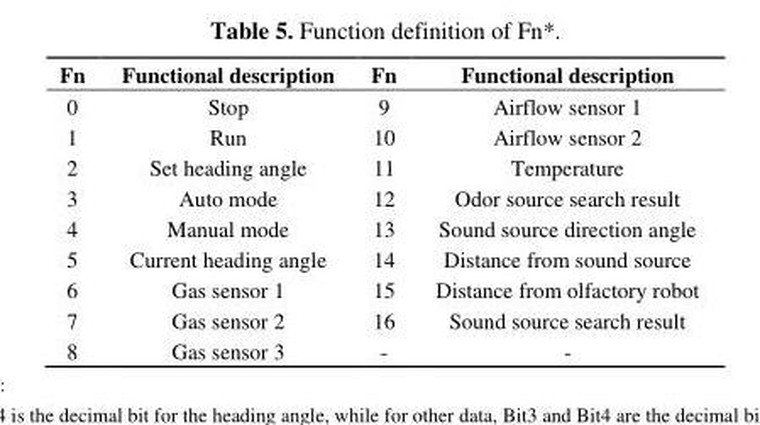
<table><thead><tr><td>Fn</td><td>Functional description</td><td>Fn</td><td>Functional description</td></tr></thead><tbody><tr><td>0</td><td>Stop</td><td>9</td><td>Airflow sensor 1</td></tr><tr><td>1</td><td>Run</td><td>10</td><td>Airflow sensor 2</td></tr><tr><td>2</td><td>Set heading angle</td><td>11</td><td>Temperature</td></tr><tr><td>3</td><td>Auto mode</td><td>12</td><td>Odor source search result</td></tr><tr><td>4</td><td>Manual mode</td><td>13</td><td>Sound source direction angle</td></tr><tr><td>5</td><td>Current heading angle</td><td>14</td><td>Distance from sound source</td></tr><tr><td>6</td><td>Gas sensor 1</td><td>15</td><td>Distance from olfactory robot</td></tr><tr><td>7</td><td>Gas sensor 2</td><td>16</td><td>Sound source search result</td></tr><tr><td>8</td><td>Gas sensor 3</td><td>-</td><td>-</td></tr></tbody></table>